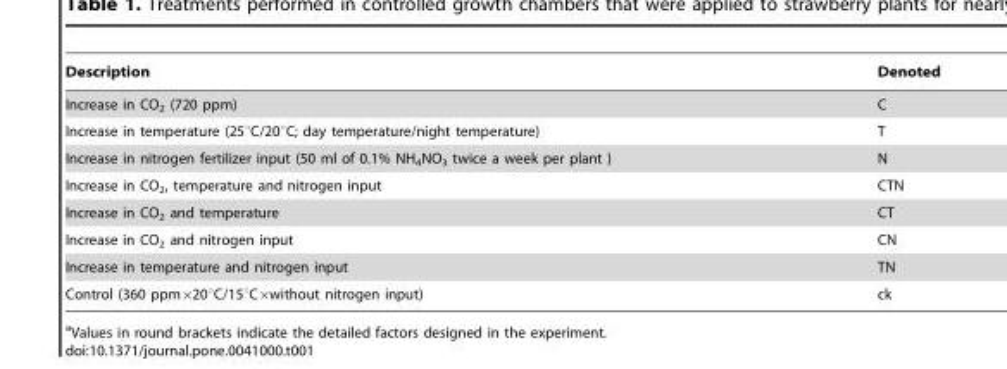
<table><thead><tr><td>Description</td><td>Denoted</td></tr></thead><tbody><tr><td>Increase in CO<sub>2</sub> (720 ppm)</td><td>C</td></tr><tr><td>Increase in temperature (25°C/20°C; day temperature/night temperature)</td><td>T</td></tr><tr><td>Increase in nitrogen fertilizer input (50 ml of 0.1% NH<sub>4</sub>NO<sub>3</sub> twice a week per plant )</td><td>N</td></tr><tr><td>Increase in CO<sub>2</sub>, temperature and nitrogen input</td><td>CTN</td></tr><tr><td>Increase in CO<sub>2</sub> and temperature</td><td>CT</td></tr><tr><td>Increase in CO<sub>2</sub> and nitrogen input</td><td>CN</td></tr><tr><td>Increase in temperature and nitrogen input</td><td>TN</td></tr><tr><td>Control (360 ppm×20°C/15°C×without nitrogen input)</td><td>ck</td></tr></tbody></table>